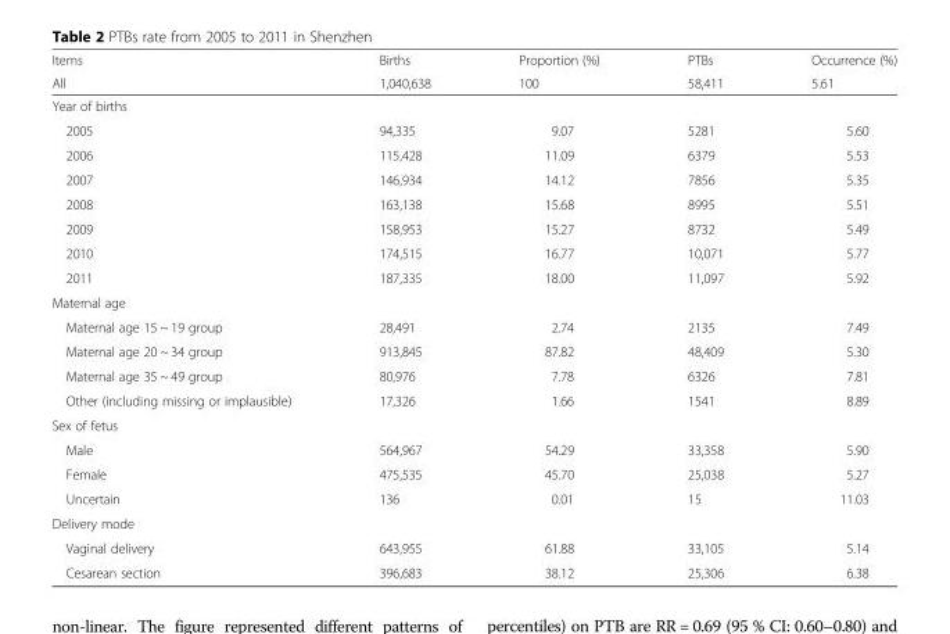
<table><thead><tr><td rowspan="2">Items All</td><td rowspan="2">Births 1,040,638</td><td rowspan="2">Proportion (%) 100</td><td rowspan="2">PTBs 58,411</td><td rowspan="2">Occurrence (%) 5.61</td></tr><tr></tr></thead><tbody><tr><td colspan="5">Year of births</td></tr><tr><td>2005</td><td>94,335</td><td>9.07</td><td>5281</td><td>5.60</td></tr><tr><td>2006</td><td>115,428</td><td>11.09</td><td>6379</td><td>5.53</td></tr><tr><td>2007</td><td>146,934</td><td>14.12</td><td>7856</td><td>5.35</td></tr><tr><td>2008</td><td>163,138</td><td>15.68</td><td>8995</td><td>5.51</td></tr><tr><td>2009</td><td>158,953</td><td>15.27</td><td>8732</td><td>5.49</td></tr><tr><td>2010</td><td>174,515</td><td>16.77</td><td>10,071</td><td>5.77</td></tr><tr><td>2011</td><td>187,335</td><td>18.00</td><td>11,097</td><td>5.92</td></tr><tr><td colspan="5">Maternal age</td></tr><tr><td>Maternal age 15 ~ 19 group</td><td>28,491</td><td>2.74</td><td>2135</td><td>7.49</td></tr><tr><td>Maternal age 20 ~ 34 group</td><td>913,845</td><td>87.82</td><td>48,409</td><td>5.30</td></tr><tr><td>Maternal age 35 ~ 49 group</td><td>80,976</td><td>7.78</td><td>6326</td><td>7.81</td></tr><tr><td>Other (including missing or implausible)</td><td>17,326</td><td>1.66</td><td>1541</td><td>8.89</td></tr><tr><td colspan="5">Sex of fetus</td></tr><tr><td>Male</td><td>564,967</td><td>54.29</td><td>33,358</td><td>5.90</td></tr><tr><td>Female</td><td>475,535</td><td>45.70</td><td>25,038</td><td>5.27</td></tr><tr><td>Uncertain</td><td>136</td><td>0.01</td><td>15</td><td>11.03</td></tr><tr><td colspan="5">Delivery mode</td></tr><tr><td>Vaginal delivery</td><td>643,955</td><td>61.88</td><td>33,105</td><td>5.14</td></tr><tr><td>Cesarean section</td><td>396,683</td><td>38.12</td><td>25,306</td><td>6.38</td></tr></tbody></table>